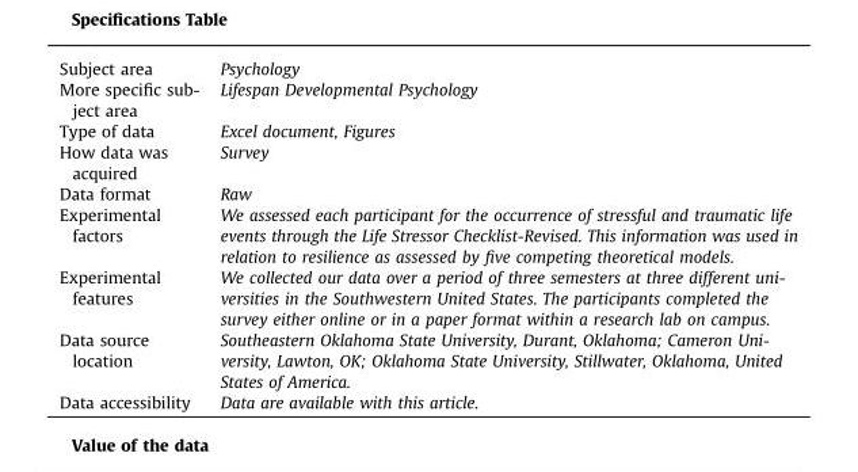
<table><tbody><tr><td>Subject area</td><td>Psychology</td></tr><tr><td>More specific sub- ject area</td><td>Lifespan Developmental Psychology</td></tr><tr><td>Type of data</td><td>Excel document, Figures</td></tr><tr><td>How data was acquired</td><td>Survey</td></tr><tr><td>Data format</td><td>Raw</td></tr><tr><td>Experimental factors</td><td>We assessed each participant for the occurrence of stressful and traumatic life events through the Life Stressor Checklist-Revised. This information was used in relation to resilience as assessed by five competing theoretical models.</td></tr><tr><td>Experimental features</td><td>We collected our data over a period of three semesters at three different uni- versities in the Southwestern United States. The participants completed the survey either online or in a paper format within a research lab on campus.</td></tr><tr><td>Data source location</td><td>Southeastern Oklahoma State University, Durant, Oklahoma; Cameron Uni- versity, Lawton, OK; Oklahoma State University, Stillwater, Oklahoma, United States of America.</td></tr><tr><td>Data accessibility</td><td>Data are available with this article.</td></tr></tbody></table>